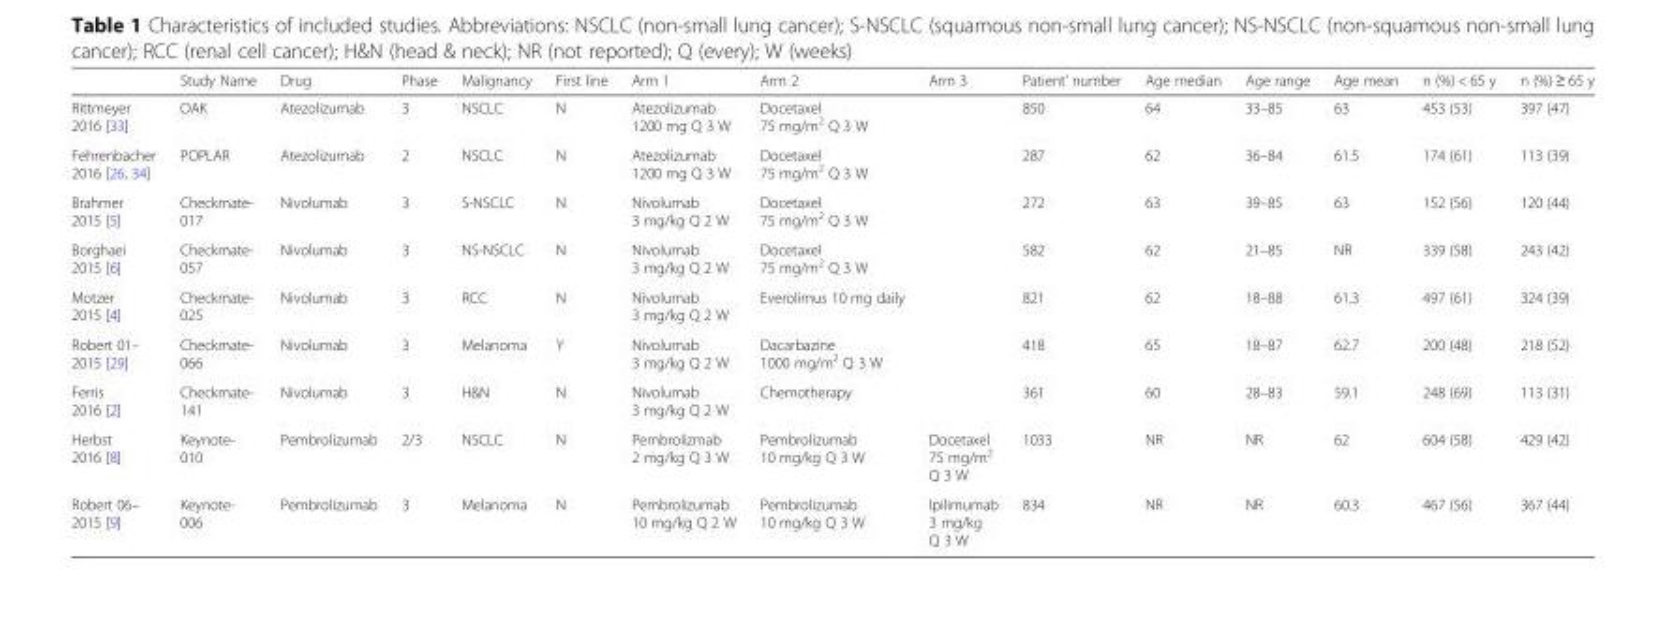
<table><thead><tr><td></td><td>Study Name</td><td>Drug</td><td>Phase</td><td>Malignancy</td><td>First line</td><td>Arm 1</td><td>Arm 2</td><td>Arm 3</td><td>Patient’ number</td><td>Age median</td><td>Age range</td><td>Age mean</td><td>n (%) &lt; 65 y</td><td>n (%) ≥ 65 y</td></tr></thead><tbody><tr><td>Rittmeyer 2016 [33]</td><td>OAK</td><td>Atezolizumab</td><td>3</td><td>NSCLC</td><td>N</td><td>Atezolizumab 1200 mg Q 3 W</td><td>Docetaxel 75 mg/m<sup>2</sup> Q 3 W</td><td></td><td>850</td><td>64</td><td>33–85</td><td>63</td><td>453 (53)</td><td>397 (47)</td></tr><tr><td>Fehrenbacher 2016 [26, 34]</td><td>POPLAR</td><td>Atezolizumab</td><td>2</td><td>NSCLC</td><td>N</td><td>Atezolizumab 1200 mg Q 3 W</td><td>Docetaxel 75 mg/m<sup>2</sup> Q 3 W</td><td></td><td>287</td><td>62</td><td>36–84</td><td>61.5</td><td>174 (61)</td><td>113 (39)</td></tr><tr><td>Brahmer 2015 [5]</td><td>Checkmate- 017</td><td>Nivolumab</td><td>3</td><td>S-NSCLC</td><td>N</td><td>Nivolumab 3 mg/kg Q 2 W</td><td>Docetaxel 75 mg/m<sup>2</sup> Q 3 W</td><td></td><td>272</td><td>63</td><td>39–85</td><td>63</td><td>152 (56)</td><td>120 (44)</td></tr><tr><td>Borghaei 2015 [6]</td><td>Checkmate- 057</td><td>Nivolumab</td><td>3</td><td>NS-NSCLC</td><td>N</td><td>Nivolumab 3 mg/kg Q 2 W</td><td>Docetaxel 75 mg/m<sup>2</sup> Q 3 W</td><td></td><td>582</td><td>62</td><td>21–85</td><td>NR</td><td>339 (58)</td><td>243 (42)</td></tr><tr><td>Motzer 2015 [4]</td><td>Checkmate- 025</td><td>Nivolumab</td><td>3</td><td>RCC</td><td>N</td><td>Nivolumab 3 mg/kg Q 2 W</td><td>Everolimus 10 mg daily</td><td></td><td>821</td><td>62</td><td>18–88</td><td>61.3</td><td>497 (61)</td><td>324 (39)</td></tr><tr><td>Robert 01– 2015 [29]</td><td>Checkmate- 066</td><td>Nivolumab</td><td>3</td><td>Melanoma</td><td>Y</td><td>Nivolumab 3 mg/kg Q 2 W</td><td>Dacarbazine 1000 mg/m<sup>2</sup> Q 3 W</td><td></td><td>418</td><td>65</td><td>18–87</td><td>62.7</td><td>200 (48)</td><td>218 (52)</td></tr><tr><td>Ferris 2016 [2]</td><td>Checkmate- 141</td><td>Nivolumab</td><td>3</td><td>H&amp;N</td><td>N</td><td>Nivolumab 3 mg/kg Q 2 W</td><td>Chemotherapy</td><td></td><td>361</td><td>60</td><td>28–83</td><td>59.1</td><td>248 (69)</td><td>113 (31)</td></tr><tr><td>Herbst 2016 [8]</td><td>Keynote- 010</td><td>Pembrolizumab</td><td>2/3</td><td>NSCLC</td><td>N</td><td>Pembrolizmab 2 mg/kg Q 3 W</td><td>Pembrolizumab 10 mg/kg Q 3 W</td><td>Docetaxel 75 mg/m<sup>2</sup> Q 3 W</td><td>1033</td><td>NR</td><td>NR</td><td>62</td><td>604 (58)</td><td>429 (42)</td></tr><tr><td>Robert 06– 2015 [9]</td><td>Keynote- 006</td><td>Pembrolizumab</td><td>3</td><td>Melanoma</td><td>N</td><td>Pembrolizumab 10 mg/kg Q 2 W</td><td>Pembrolizumab 10 mg/kg Q 3 W</td><td>Ipilimumab 3 mg/kg Q 3 W</td><td>834</td><td>NR</td><td>NR</td><td>60.3</td><td>467 (56)</td><td>367 (44)</td></tr></tbody></table>